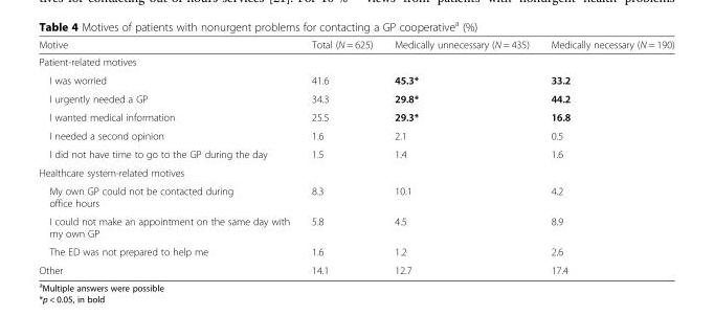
<table><thead><tr><td>Motive</td><td>Total (N = 625)</td><td>Medically unnecessary (N = 435)</td><td>Medically necessary (N = 190)</td></tr></thead><tbody><tr><td colspan="4">Patient-related motives</td></tr><tr><td>I was worried</td><td>41.6</td><td>45.3*</td><td>33.2</td></tr><tr><td>I urgently needed a GP</td><td>34.3</td><td>29.8*</td><td>44.2</td></tr><tr><td>I wanted medical information</td><td>25.5</td><td>29.3*</td><td>16.8</td></tr><tr><td>I needed a second opinion</td><td>1.6</td><td>2.1</td><td>0.5</td></tr><tr><td>I did not have time to go to the GP during the day</td><td>1.5</td><td>1.4</td><td>1.6</td></tr><tr><td colspan="4">Healthcare system-related motives</td></tr><tr><td>My own GP could not be contacted during office hours</td><td>8.3</td><td>10.1</td><td>4.2</td></tr><tr><td>I could not make an appointment on the same day with my own GP</td><td>5.8</td><td>4.5</td><td>8.9</td></tr><tr><td>The ED was not prepared to help me</td><td>1.6</td><td>1.2</td><td>2.6</td></tr><tr><td>Other</td><td>14.1</td><td>12.7</td><td>17.4</td></tr></tbody></table>